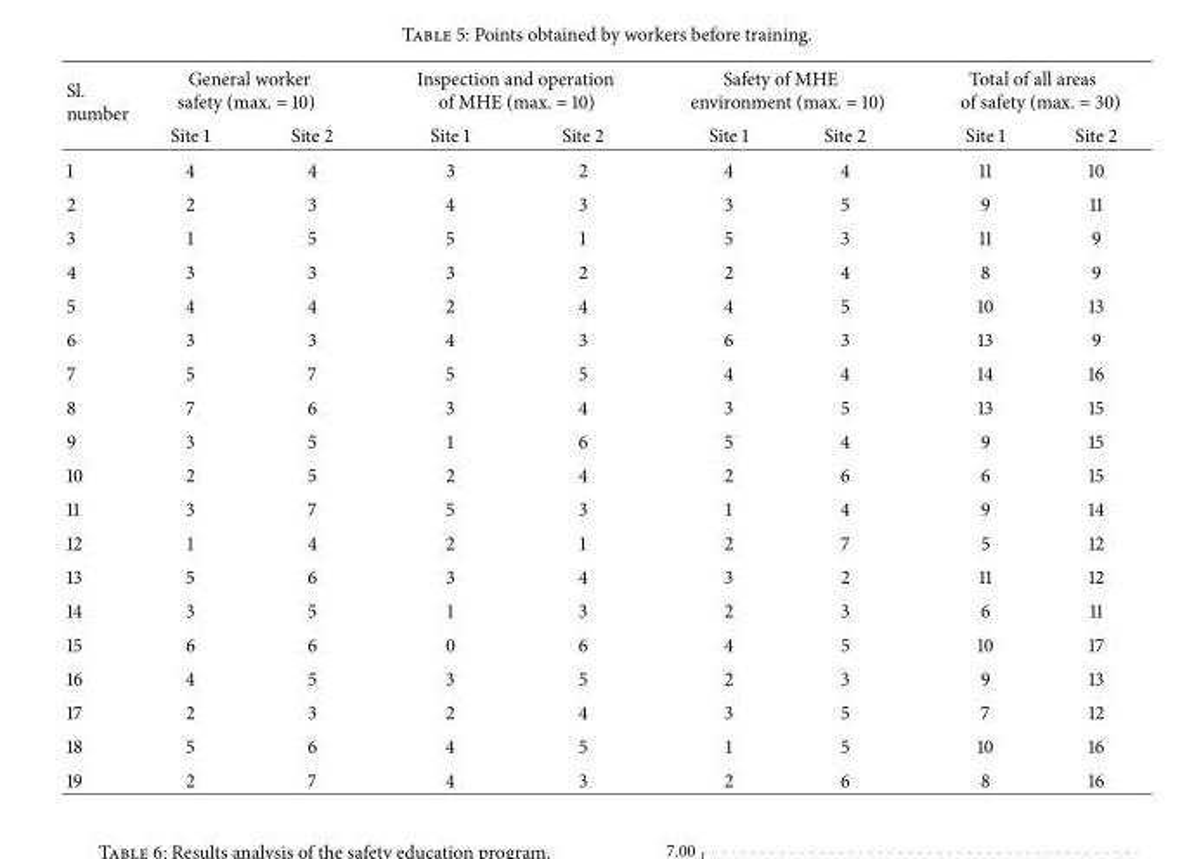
<table><thead><tr><td rowspan="2">Sl. number</td><td colspan="2">General worker safety (max. = 10)</td><td colspan="2">Inspection and operation of MHE (max. = 10)</td><td colspan="2">Safety of MHE environment (max. = 10)</td><td colspan="2">Total of all areas of safety (max. = 30)</td></tr><tr><td>Site 1</td><td>Site 2</td><td>Site 1</td><td>Site 2</td><td>Site 1</td><td>Site 2</td><td>Site 1</td><td>Site 2</td></tr></thead><tbody><tr><td>1</td><td>4</td><td>4</td><td>3</td><td>2</td><td>4</td><td>4</td><td>11</td><td>10</td></tr><tr><td>2</td><td>2</td><td>3</td><td>4</td><td>3</td><td>3</td><td>5</td><td>9</td><td>11</td></tr><tr><td>3</td><td>1</td><td>5</td><td>5</td><td>1</td><td>5</td><td>3</td><td>11</td><td>9</td></tr><tr><td>4</td><td>3</td><td>3</td><td>3</td><td>2</td><td>2</td><td>4</td><td>8</td><td>9</td></tr><tr><td>5</td><td>4</td><td>4</td><td>2</td><td>4</td><td>4</td><td>5</td><td>10</td><td>13</td></tr><tr><td>6</td><td>3</td><td>3</td><td>4</td><td>3</td><td>6</td><td>3</td><td>13</td><td>9</td></tr><tr><td>7</td><td>5</td><td>7</td><td>5</td><td>5</td><td>4</td><td>4</td><td>14</td><td>16</td></tr><tr><td>8</td><td>7</td><td>6</td><td>3</td><td>4</td><td>3</td><td>5</td><td>13</td><td>15</td></tr><tr><td>9</td><td>3</td><td>5</td><td>1</td><td>6</td><td>5</td><td>4</td><td>9</td><td>15</td></tr><tr><td>10</td><td>2</td><td>5</td><td>2</td><td>4</td><td>2</td><td>6</td><td>6</td><td>15</td></tr><tr><td>11</td><td>3</td><td>7</td><td>5</td><td>3</td><td>1</td><td>4</td><td>9</td><td>14</td></tr><tr><td>12</td><td>1</td><td>4</td><td>2</td><td>1</td><td>2</td><td>7</td><td>5</td><td>12</td></tr><tr><td>13</td><td>5</td><td>6</td><td>3</td><td>4</td><td>3</td><td>2</td><td>11</td><td>12</td></tr><tr><td>14</td><td>3</td><td>5</td><td>1</td><td>3</td><td>2</td><td>3</td><td>6</td><td>11</td></tr><tr><td>15</td><td>6</td><td>6</td><td>0</td><td>6</td><td>4</td><td>5</td><td>10</td><td>17</td></tr><tr><td>16</td><td>4</td><td>5</td><td>3</td><td>5</td><td>2</td><td>3</td><td>9</td><td>13</td></tr><tr><td>17</td><td>2</td><td>3</td><td>2</td><td>4</td><td>3</td><td>5</td><td>7</td><td>12</td></tr><tr><td>18</td><td>5</td><td>6</td><td>4</td><td>5</td><td>1</td><td>5</td><td>10</td><td>16</td></tr><tr><td>19</td><td>2</td><td>7</td><td>4</td><td>3</td><td>2</td><td>6</td><td>8</td><td>16</td></tr></tbody></table>